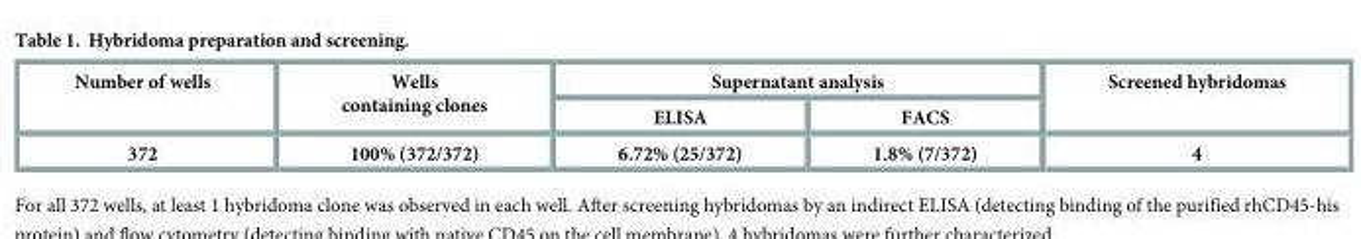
<table><thead><tr><td rowspan="2">Number of wells</td><td rowspan="2">Wells containing clones</td><td colspan="2">Supernatant analysis</td><td rowspan="2">Screened hybridomas</td></tr><tr><td>ELISA</td><td>FACS</td></tr></thead><tbody><tr><td>372</td><td>100% (372/372)</td><td>6.72% (25/372)</td><td>1.8% (7/372)</td><td>4</td></tr></tbody></table>